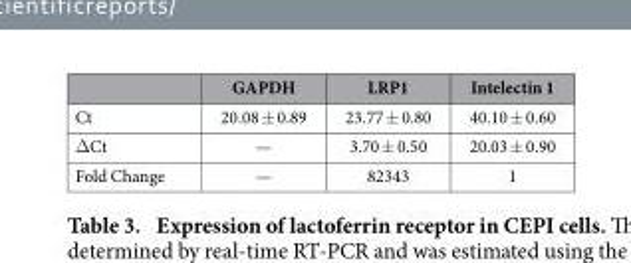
<table><thead><tr><td></td><td>GAPDH</td><td>LRP1</td><td>Intelectin 1</td></tr></thead><tbody><tr><td>Ct</td><td>20.08 ± 0.89</td><td>23.77 ± 0.80</td><td>40.10 ± 0.60</td></tr><tr><td>Δ Ct</td><td>—</td><td>3.70 ± 0.50</td><td>20.03 ± 0.90</td></tr><tr><td>Fold Change</td><td>—</td><td>82343</td><td>1</td></tr></tbody></table>